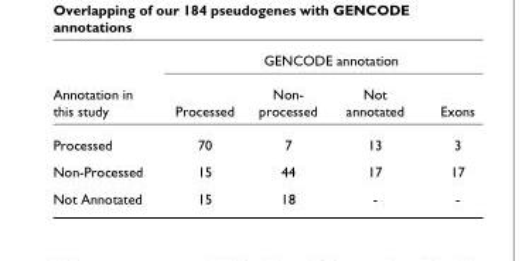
<table><thead><tr><td rowspan="2">Annotation in this study</td><td colspan="4">GENCODE annotation</td></tr><tr><td>Processed</td><td>Non- processed</td><td>Not annotated</td><td>Exons</td></tr></thead><tbody><tr><td>Processed</td><td>70</td><td>7</td><td>13</td><td>3</td></tr><tr><td>Non-Processed</td><td>15</td><td>44</td><td>17</td><td>17</td></tr><tr><td>Not Annotated</td><td>15</td><td>18</td><td>-</td><td>-</td></tr></tbody></table>